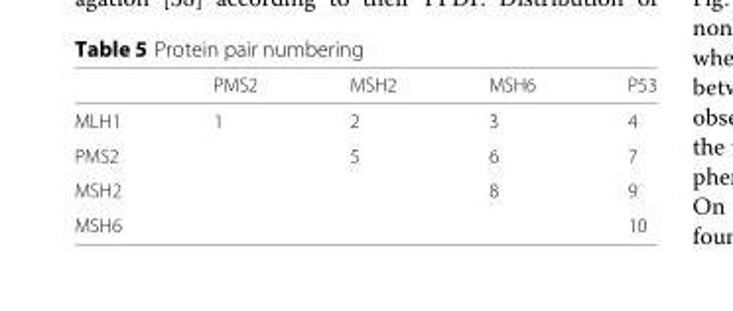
<table><thead><tr><td></td><td>PMS2</td><td>MSH2</td><td>MSH6</td><td>P53</td></tr></thead><tbody><tr><td>MLH1</td><td>1</td><td>2</td><td>3</td><td>4</td></tr><tr><td>PMS2</td><td></td><td>5</td><td>6</td><td>7</td></tr><tr><td>MSH2</td><td></td><td></td><td>8</td><td>9</td></tr><tr><td>MSH6</td><td></td><td></td><td></td><td>10</td></tr></tbody></table>